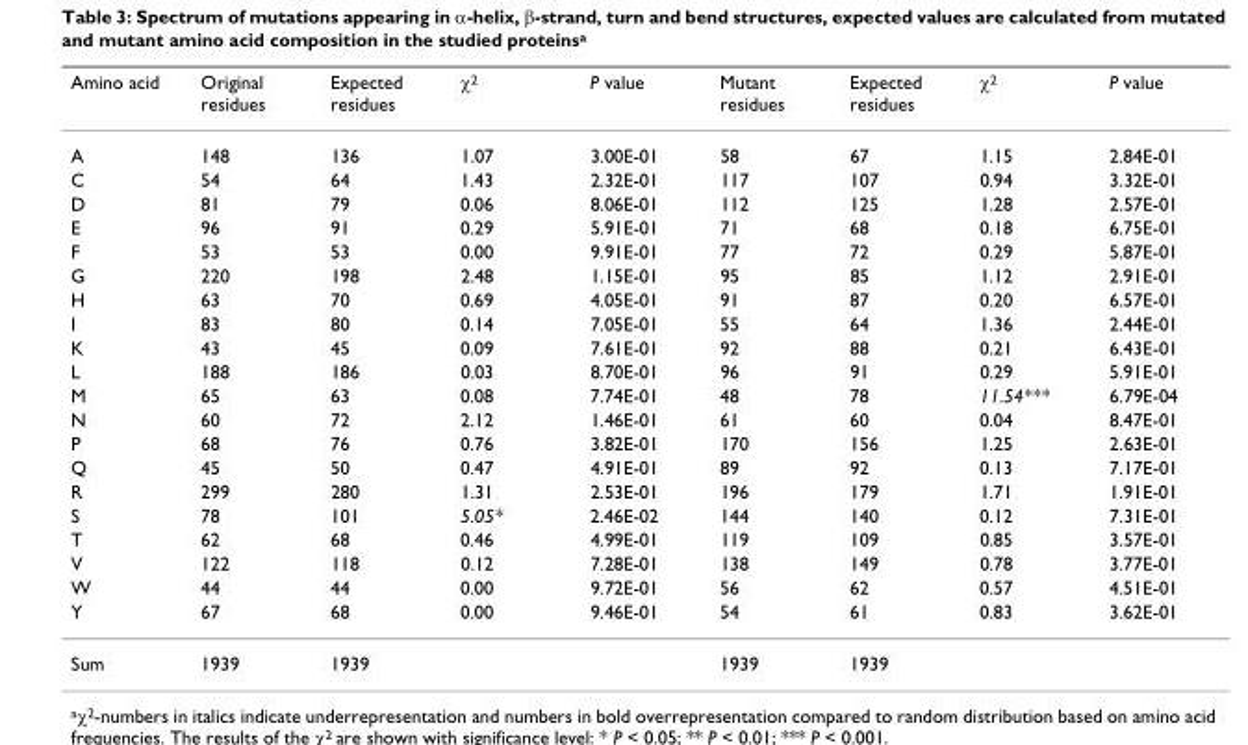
<table><thead><tr><td>Amino acid</td><td>Original residues</td><td>Expected residues</td><td>χ<sup>2</sup></td><td>P value</td><td>Mutant residues</td><td>Expected residues</td><td>χ<sup>2</sup></td><td>P value</td></tr></thead><tbody><tr><td>A</td><td>148</td><td>136</td><td>1.07</td><td>3.00E-01</td><td>58</td><td>67</td><td>1.15</td><td>2.84E-01</td></tr><tr><td>C</td><td>54</td><td>64</td><td>1.43</td><td>2.32E-01</td><td>117</td><td>107</td><td>0.94</td><td>3.32E-01</td></tr><tr><td>D</td><td>81</td><td>79</td><td>0.06</td><td>8.06E-01</td><td>112</td><td>125</td><td>1.28</td><td>2.57E-01</td></tr><tr><td>E</td><td>96</td><td>91</td><td>0.29</td><td>5.91E-01</td><td>71</td><td>68</td><td>0.18</td><td>6.75E-01</td></tr><tr><td>F</td><td>53</td><td>53</td><td>0.00</td><td>9.91E-01</td><td>77</td><td>72</td><td>0.29</td><td>5.87E-01</td></tr><tr><td>G</td><td>220</td><td>198</td><td>2.48</td><td>1.15E-01</td><td>95</td><td>85</td><td>1.12</td><td>2.91E-01</td></tr><tr><td>H</td><td>63</td><td>70</td><td>0.69</td><td>4.05E-01</td><td>91</td><td>87</td><td>0.20</td><td>6.57E-01</td></tr><tr><td>I</td><td>83</td><td>80</td><td>0.14</td><td>7.05E-01</td><td>55</td><td>64</td><td>1.36</td><td>2.44E-01</td></tr><tr><td>K</td><td>43</td><td>45</td><td>0.09</td><td>7.61E-01</td><td>92</td><td>88</td><td>0.21</td><td>6.43E-01</td></tr><tr><td>L</td><td>188</td><td>186</td><td>0.03</td><td>8.70E-01</td><td>96</td><td>91</td><td>0.29</td><td>5.91E-01</td></tr><tr><td>M</td><td>65</td><td>63</td><td>0.08</td><td>7.74E-01</td><td>48</td><td>78</td><td>11.54***</td><td>6.79E-04</td></tr><tr><td>N</td><td>60</td><td>72</td><td>2.12</td><td>1.46E-01</td><td>61</td><td>60</td><td>0.04</td><td>8.47E-01</td></tr><tr><td>P</td><td>68</td><td>76</td><td>0.76</td><td>3.82E-01</td><td>170</td><td>156</td><td>1.25</td><td>2.63E-01</td></tr><tr><td>Q</td><td>45</td><td>50</td><td>0.47</td><td>4.91E-01</td><td>89</td><td>92</td><td>0.13</td><td>7.17E-01</td></tr><tr><td>R</td><td>299</td><td>280</td><td>1.31</td><td>2.53E-01</td><td>196</td><td>179</td><td>1.71</td><td>1.91E-01</td></tr><tr><td>S</td><td>78</td><td>101</td><td>5.05*</td><td>2.46E-02</td><td>144</td><td>140</td><td>0.12</td><td>7.31E-01</td></tr><tr><td>T</td><td>62</td><td>68</td><td>0.46</td><td>4.99E-01</td><td>119</td><td>109</td><td>0.85</td><td>3.57E-01</td></tr><tr><td>V</td><td>122</td><td>118</td><td>0.12</td><td>7.28E-01</td><td>138</td><td>149</td><td>0.78</td><td>3.77E-01</td></tr><tr><td>W</td><td>44</td><td>44</td><td>0.00</td><td>9.72E-01</td><td>56</td><td>62</td><td>0.57</td><td>4.51E-01</td></tr><tr><td>Y</td><td>67</td><td>68</td><td>0.00</td><td>9.46E-01</td><td>54</td><td>61</td><td>0.83</td><td>3.62E-01</td></tr><tr><td>Sum</td><td>1939</td><td>1939</td><td></td><td></td><td>1939</td><td>1939</td><td></td><td></td></tr></tbody></table>